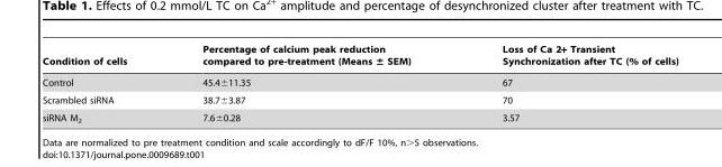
<table><thead><tr><td>Condition of cells</td><td>Percentage of calcium peak reduction compared to pre-treatment (Means ± SEM)</td><td>Loss of Ca 2+ Transient Synchronization after TC (% of cells)</td></tr></thead><tbody><tr><td>Control</td><td>45.4±11.35</td><td>67</td></tr><tr><td>Scrambled siRNA</td><td>38.7±3.87</td><td>70</td></tr><tr><td>siRNA M<sub>2</sub></td><td>7.6±0.28</td><td>3.57</td></tr></tbody></table>